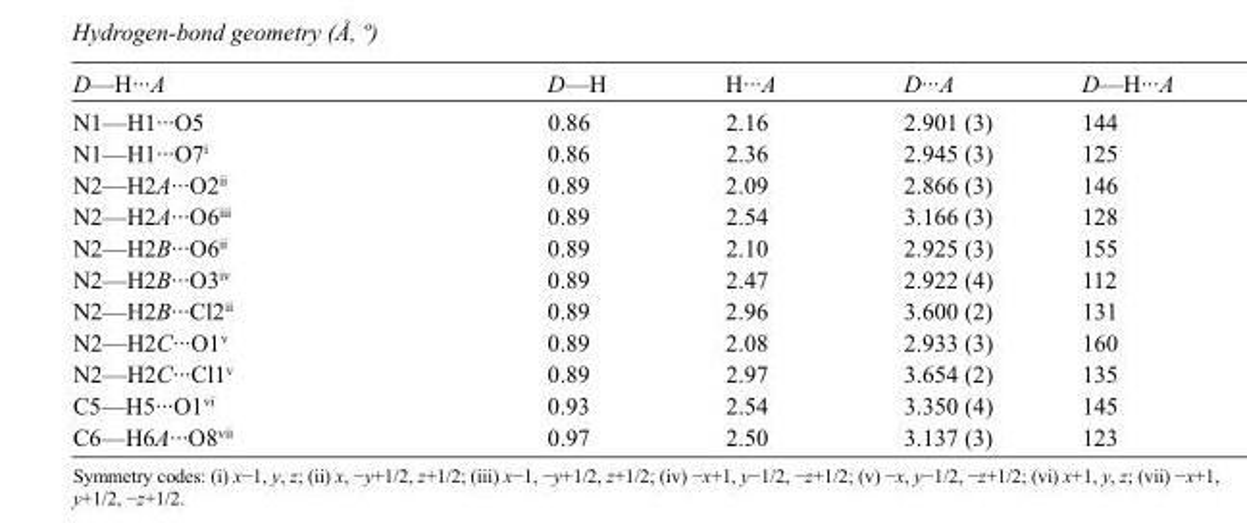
<table><tbody><tr><td>D—H···A</td><td>D—H</td><td>H···A</td><td>D···A</td><td>D—H···A</td></tr><tr><td>N1—H1···O5</td><td>0.86</td><td>2.16</td><td>2.901 (3)</td><td>144</td></tr><tr><td>N1—H1···O7<sup>i</sup></td><td>0.86</td><td>2.36</td><td>2.945 (3)</td><td>125</td></tr><tr><td>N2—H2A···O2<sup>ii</sup></td><td>0.89</td><td>2.09</td><td>2.866 (3)</td><td>146</td></tr><tr><td>N2—H2A···O6<sup>iii</sup></td><td>0.89</td><td>2.54</td><td>3.166 (3)</td><td>128</td></tr><tr><td>N2—H2B···O6<sup>ii</sup></td><td>0.89</td><td>2.10</td><td>2.925 (3)</td><td>155</td></tr><tr><td>N2—H2B···O3<sup>iv</sup></td><td>0.89</td><td>2.47</td><td>2.922 (4)</td><td>112</td></tr><tr><td>N2—H2B···Cl2<sup>ii</sup></td><td>0.89</td><td>2.96</td><td>3.600 (2)</td><td>131</td></tr><tr><td>N2—H2C···O1<sup>v</sup></td><td>0.89</td><td>2.08</td><td>2.933 (3)</td><td>160</td></tr><tr><td>N2—H2C···Cl1<sup>v</sup></td><td>0.89</td><td>2.97</td><td>3.654 (2)</td><td>135</td></tr><tr><td>C5—H5···O1<sup>vi</sup></td><td>0.93</td><td>2.54</td><td>3.350 (4)</td><td>145</td></tr><tr><td>C6—H6A···O8<sup>vii</sup></td><td>0.97</td><td>2.50</td><td>3.137 (3)</td><td>123</td></tr></tbody></table>